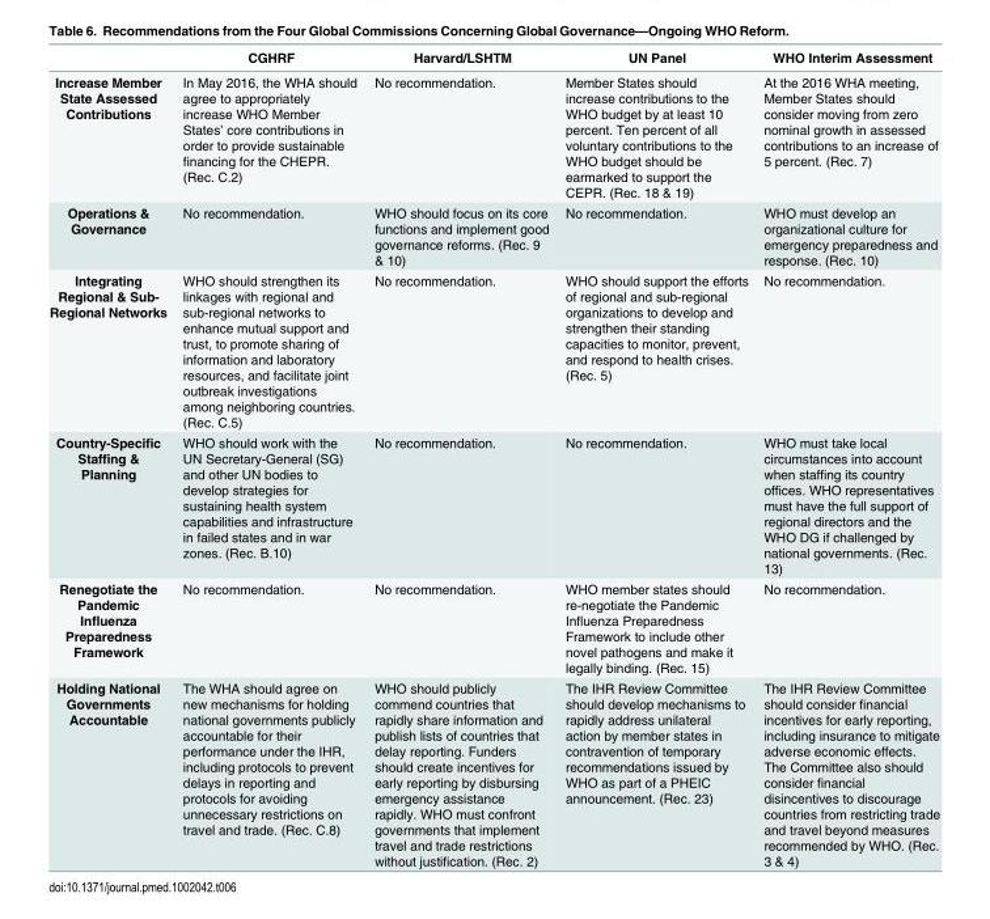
<table><thead><tr><td></td><td>CGHRF</td><td>Harvard/LSHTM</td><td>UN Panel</td><td>WHO Interim Assessment</td></tr></thead><tbody><tr><td>Increase Member State Assessed Contributions</td><td>In May 2016, the WHA should agree to appropriately increase WHO Member States’ core contributions in order to provide sustainable financing for the CHEPR. (Rec. C.2)</td><td>No recommendation.</td><td>Member States should increase contributions to the WHO budget by at least 10 percent. Ten percent of all voluntary contributions to the WHO budget should be earmarked to support the CEPR. (Rec. 18 &amp; 19)</td><td>At the 2016 WHA meeting, Member States should consider moving from zero nominal growth in assessed contributions to an increase of 5 percent. (Rec. 7)</td></tr><tr><td>Operations &amp; Governance</td><td>No recommendation.</td><td>WHO should focus on its core functions and implement good governance reforms. (Rec. 9 &amp; 10)</td><td>No recommendation.</td><td>WHO must develop an organizational culture for emergency preparedness and response. (Rec. 10)</td></tr><tr><td>Integrating Regional &amp; Sub- Regional Networks</td><td>WHO should strengthen its linkages with regional and sub-regional networks to enhance mutual support and trust, to promote sharing of information and laboratory resources, and facilitate joint outbreak investigations among neighboring countries. (Rec. C.5)</td><td>No recommendation.</td><td>WHO should support the efforts of regional and sub-regional organizations to develop and strengthen their standing capacities to monitor, prevent, and respond to health crises. (Rec. 5)</td><td>No recommendation.</td></tr><tr><td>Country-Specific Staffing &amp; Planning</td><td>WHO should work with the UN Secretary-General (SG) and other UN bodies to develop strategies for sustaining health system capabilities and infrastructure in failed states and in war zones. (Rec. B.10)</td><td>No recommendation.</td><td>No recommendation.</td><td>WHO must take local circumstances into account when staffing its country offices. WHO representatives must have the full support of regional directors and the WHO DG if challenged by national governments. (Rec. 13)</td></tr><tr><td>Renegotiate the Pandemic Influenza Preparedness Framework</td><td>No recommendation.</td><td>No recommendation.</td><td>WHO member states should re-negotiate the Pandemic Influenza Preparedness Framework to include other novel pathogens and make it legally binding. (Rec. 15)</td><td>No recommendation.</td></tr><tr><td>Holding National Governments Accountable</td><td>The WHA should agree on new mechanisms for holding national governments publicly accountable for their performance under the IHR, including protocols to prevent delays in reporting and protocols for avoiding unnecessary restrictions on travel and trade. (Rec. C.8)</td><td>WHO should publicly commend countries that rapidly share information and publish lists of countries that delay reporting. Funders should create incentives for early reporting by disbursing emergency assistance rapidly. WHO must confront governments that implement travel and trade restrictions without justification. (Rec. 2)</td><td>The IHR Review Committee should develop mechanisms to rapidly address unilateral action by member states in contravention of temporary recommendations issued by WHO as part of a PHEIC announcement. (Rec. 23)</td><td>The IHR Review Committee should consider financial incentives for early reporting, including insurance to mitigate adverse economic effects. The Committee also should consider financial disincentives to discourage countries from restricting trade and travel beyond measures recommended by WHO. (Rec. 3 &amp; 4)</td></tr></tbody></table>